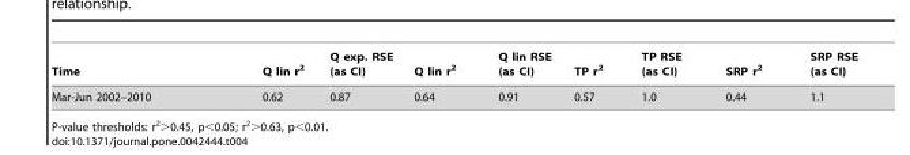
<table><thead><tr><td>Time</td><td>Q lin r<sup>2</sup></td><td>Q exp. RSE (as CI)</td><td>Q lin r<sup>2</sup></td><td>Q lin RSE (as CI)</td><td>TP r<sup>2</sup></td><td>TP RSE (as CI)</td><td>SRP r<sup>2</sup></td><td>SRP RSE (as CI)</td></tr></thead><tbody><tr><td>Mar-Jun 2002–2010</td><td>0.62</td><td>0.87</td><td>0.64</td><td>0.91</td><td>0.57</td><td>1.0</td><td>0.44</td><td>1.1</td></tr></tbody></table>